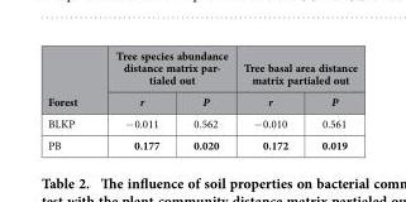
<table><thead><tr><td rowspan="2">Forest</td><td colspan="2">Tree species abundance distance matrix par- tialed out</td><td colspan="2">Tree basal area distance matrix partialed out</td></tr><tr><td>r</td><td>P</td><td>r</td><td>P</td></tr></thead><tbody><tr><td>BLKP</td><td>− 0.011</td><td>0.562</td><td>− 0.010</td><td>0.561</td></tr><tr><td>PB</td><td>0.177</td><td>0.020</td><td>0.172</td><td>0.019</td></tr></tbody></table>